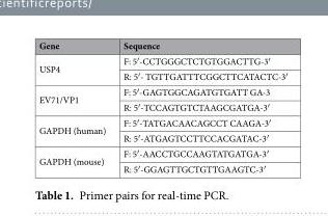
<table><thead><tr><td>Gene</td><td>Sequence</td></tr></thead><tbody><tr><td rowspan="2">USP4</td><td>F: 5′-CCTGGGCTCTGTGGACTTG-3′</td></tr><tr><td>R: 5′- TGTTGATTTCGGCTTCATACTC-3′</td></tr><tr><td rowspan="2">EV71/VP1</td><td>F: 5′-GAGTGGCAGATGTGATT GA-3</td></tr><tr><td>R: 5′-TCCAGTGTCTAAGCGATGA-3′</td></tr><tr><td rowspan="2">GAPDH (human)</td><td>F: 5′-TATGACAACAGCCT CAAGA-3′</td></tr><tr><td>R: 5′-ATGAGTCCTTCCACGATAC-3′</td></tr><tr><td rowspan="2">GAPDH (mouse)</td><td>F: 5′-AACCTGCCAAGTATGATGA-3′</td></tr><tr><td>R: 5′-GGAGTTGCTGTTGAAGTC-3′</td></tr></tbody></table>